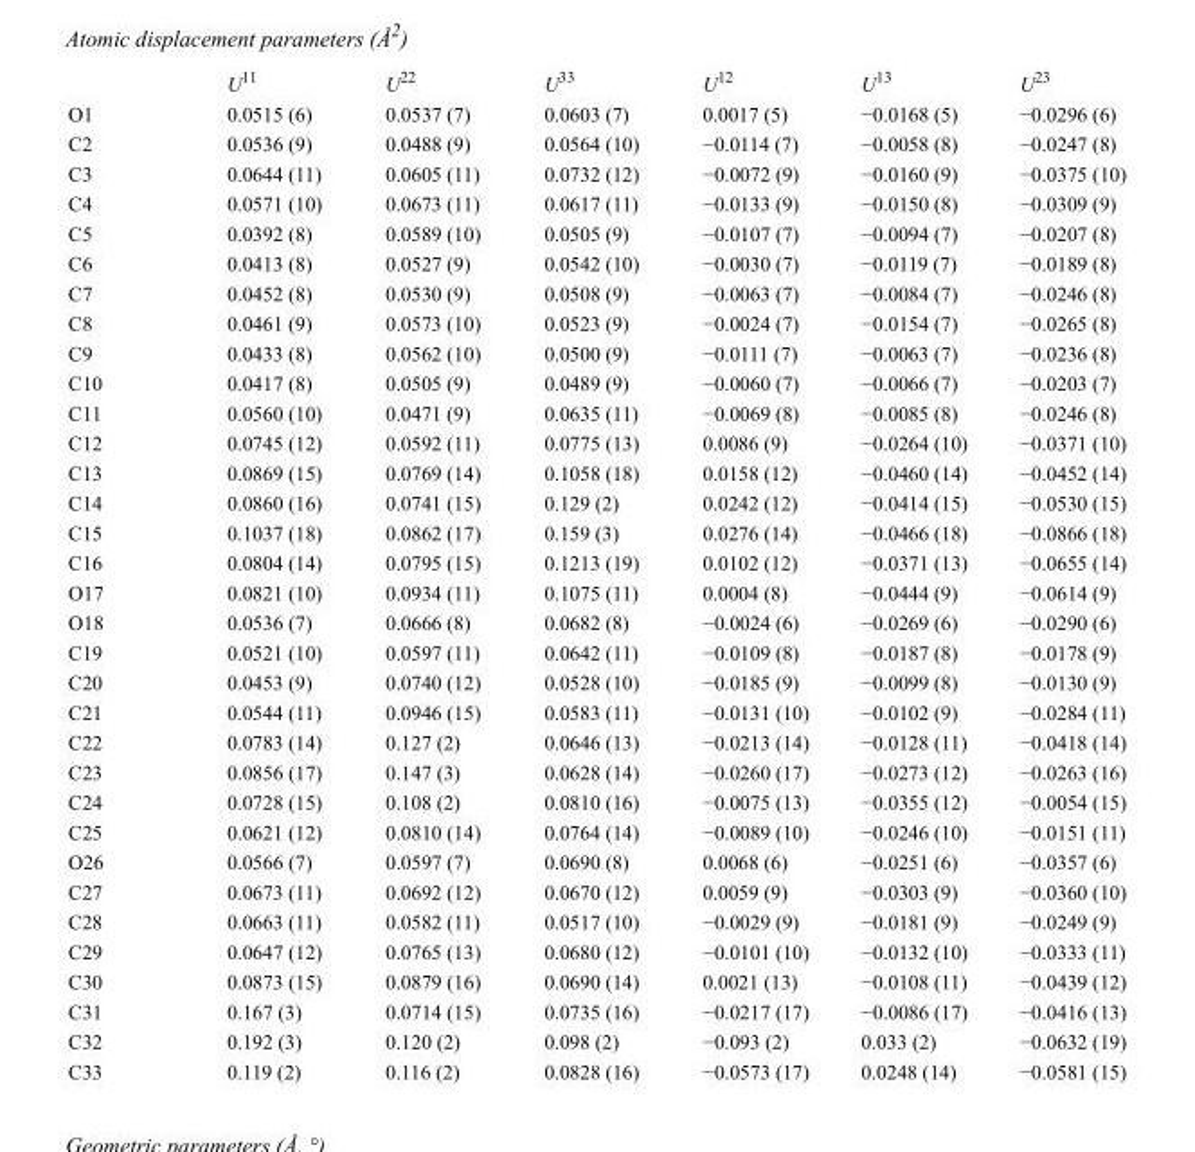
<table><thead><tr><td></td><td>U<sup>11</sup></td><td>U<sup>22</sup></td><td>U<sup>33</sup></td><td>U<sup>12</sup></td><td>U<sup>13</sup></td><td>U<sup>23</sup></td></tr></thead><tbody><tr><td>O1</td><td>0.0515 (6)</td><td>0.0537 (7)</td><td>0.0603 (7)</td><td>0.0017 (5)</td><td>−0.0168 (5)</td><td>−0.0296 (6)</td></tr><tr><td>C2</td><td>0.0536 (9)</td><td>0.0488 (9)</td><td>0.0564 (10)</td><td>−0.0114 (7)</td><td>−0.0058 (8)</td><td>−0.0247 (8)</td></tr><tr><td>C3</td><td>0.0644 (11)</td><td>0.0605 (11)</td><td>0.0732 (12)</td><td>−0.0072 (9)</td><td>−0.0160 (9)</td><td>−0.0375 (10)</td></tr><tr><td>C4</td><td>0.0571 (10)</td><td>0.0673 (11)</td><td>0.0617 (11)</td><td>−0.0133 (9)</td><td>−0.0150 (8)</td><td>−0.0309 (9)</td></tr><tr><td>C5</td><td>0.0392 (8)</td><td>0.0589 (10)</td><td>0.0505 (9)</td><td>−0.0107 (7)</td><td>−0.0094 (7)</td><td>−0.0207 (8)</td></tr><tr><td>C6</td><td>0.0413 (8)</td><td>0.0527 (9)</td><td>0.0542 (10)</td><td>−0.0030 (7)</td><td>−0.0119 (7)</td><td>−0.0189 (8)</td></tr><tr><td>C7</td><td>0.0452 (8)</td><td>0.0530 (9)</td><td>0.0508 (9)</td><td>−0.0063 (7)</td><td>−0.0084 (7)</td><td>−0.0246 (8)</td></tr><tr><td>C8</td><td>0.0461 (9)</td><td>0.0573 (10)</td><td>0.0523 (9)</td><td>−0.0024 (7)</td><td>−0.0154 (7)</td><td>−0.0265 (8)</td></tr><tr><td>C9</td><td>0.0433 (8)</td><td>0.0562 (10)</td><td>0.0500 (9)</td><td>−0.0111 (7)</td><td>−0.0063 (7)</td><td>−0.0236 (8)</td></tr><tr><td>C10</td><td>0.0417 (8)</td><td>0.0505 (9)</td><td>0.0489 (9)</td><td>−0.0060 (7)</td><td>−0.0066 (7)</td><td>−0.0203 (7)</td></tr><tr><td>C11</td><td>0.0560 (10)</td><td>0.0471 (9)</td><td>0.0635 (11)</td><td>−0.0069 (8)</td><td>−0.0085 (8)</td><td>−0.0246 (8)</td></tr><tr><td>C12</td><td>0.0745 (12)</td><td>0.0592 (11)</td><td>0.0775 (13)</td><td>0.0086 (9)</td><td>−0.0264 (10)</td><td>−0.0371 (10)</td></tr><tr><td>C13</td><td>0.0869 (15)</td><td>0.0769 (14)</td><td>0.1058 (18)</td><td>0.0158 (12)</td><td>−0.0460 (14)</td><td>−0.0452 (14)</td></tr><tr><td>C14</td><td>0.0860 (16)</td><td>0.0741 (15)</td><td>0.129 (2)</td><td>0.0242 (12)</td><td>−0.0414 (15)</td><td>−0.0530 (15)</td></tr><tr><td>C15</td><td>0.1037 (18)</td><td>0.0862 (17)</td><td>0.159 (3)</td><td>0.0276 (14)</td><td>−0.0466 (18)</td><td>−0.0866 (18)</td></tr><tr><td>C16</td><td>0.0804 (14)</td><td>0.0795 (15)</td><td>0.1213 (19)</td><td>0.0102 (12)</td><td>−0.0371 (13)</td><td>−0.0655 (14)</td></tr><tr><td>O17</td><td>0.0821 (10)</td><td>0.0934 (11)</td><td>0.1075 (11)</td><td>0.0004 (8)</td><td>−0.0444 (9)</td><td>−0.0614 (9)</td></tr><tr><td>O18</td><td>0.0536 (7)</td><td>0.0666 (8)</td><td>0.0682 (8)</td><td>−0.0024 (6)</td><td>−0.0269 (6)</td><td>−0.0290 (6)</td></tr><tr><td>C19</td><td>0.0521 (10)</td><td>0.0597 (11)</td><td>0.0642 (11)</td><td>−0.0109 (8)</td><td>−0.0187 (8)</td><td>−0.0178 (9)</td></tr><tr><td>C20</td><td>0.0453 (9)</td><td>0.0740 (12)</td><td>0.0528 (10)</td><td>−0.0185 (9)</td><td>−0.0099 (8)</td><td>−0.0130 (9)</td></tr><tr><td>C21</td><td>0.0544 (11)</td><td>0.0946 (15)</td><td>0.0583 (11)</td><td>−0.0131 (10)</td><td>−0.0102 (9)</td><td>−0.0284 (11)</td></tr><tr><td>C22</td><td>0.0783 (14)</td><td>0.127 (2)</td><td>0.0646 (13)</td><td>−0.0213 (14)</td><td>−0.0128 (11)</td><td>−0.0418 (14)</td></tr><tr><td>C23</td><td>0.0856 (17)</td><td>0.147 (3)</td><td>0.0628 (14)</td><td>−0.0260 (17)</td><td>−0.0273 (12)</td><td>−0.0263 (16)</td></tr><tr><td>C24</td><td>0.0728 (15)</td><td>0.108 (2)</td><td>0.0810 (16)</td><td>−0.0075 (13)</td><td>−0.0355 (12)</td><td>−0.0054 (15)</td></tr><tr><td>C25</td><td>0.0621 (12)</td><td>0.0810 (14)</td><td>0.0764 (14)</td><td>−0.0089 (10)</td><td>−0.0246 (10)</td><td>−0.0151 (11)</td></tr><tr><td>O26</td><td>0.0566 (7)</td><td>0.0597 (7)</td><td>0.0690 (8)</td><td>0.0068 (6)</td><td>−0.0251 (6)</td><td>−0.0357 (6)</td></tr><tr><td>C27</td><td>0.0673 (11)</td><td>0.0692 (12)</td><td>0.0670 (12)</td><td>0.0059 (9)</td><td>−0.0303 (9)</td><td>−0.0360 (10)</td></tr><tr><td>C28</td><td>0.0663 (11)</td><td>0.0582 (11)</td><td>0.0517 (10)</td><td>−0.0029 (9)</td><td>−0.0181 (9)</td><td>−0.0249 (9)</td></tr><tr><td>C29</td><td>0.0647 (12)</td><td>0.0765 (13)</td><td>0.0680 (12)</td><td>−0.0101 (10)</td><td>−0.0132 (10)</td><td>−0.0333 (11)</td></tr><tr><td>C30</td><td>0.0873 (15)</td><td>0.0879 (16)</td><td>0.0690 (14)</td><td>0.0021 (13)</td><td>−0.0108 (11)</td><td>−0.0439 (12)</td></tr><tr><td>C31</td><td>0.167 (3)</td><td>0.0714 (15)</td><td>0.0735 (16)</td><td>−0.0217 (17)</td><td>−0.0086 (17)</td><td>−0.0416 (13)</td></tr><tr><td>C32</td><td>0.192 (3)</td><td>0.120 (2)</td><td>0.098 (2)</td><td>−0.093 (2)</td><td>0.033 (2)</td><td>−0.0632 (19)</td></tr><tr><td>C33</td><td>0.119 (2)</td><td>0.116 (2)</td><td>0.0828 (16)</td><td>−0.0573 (17)</td><td>0.0248 (14)</td><td>−0.0581 (15)</td></tr></tbody></table>